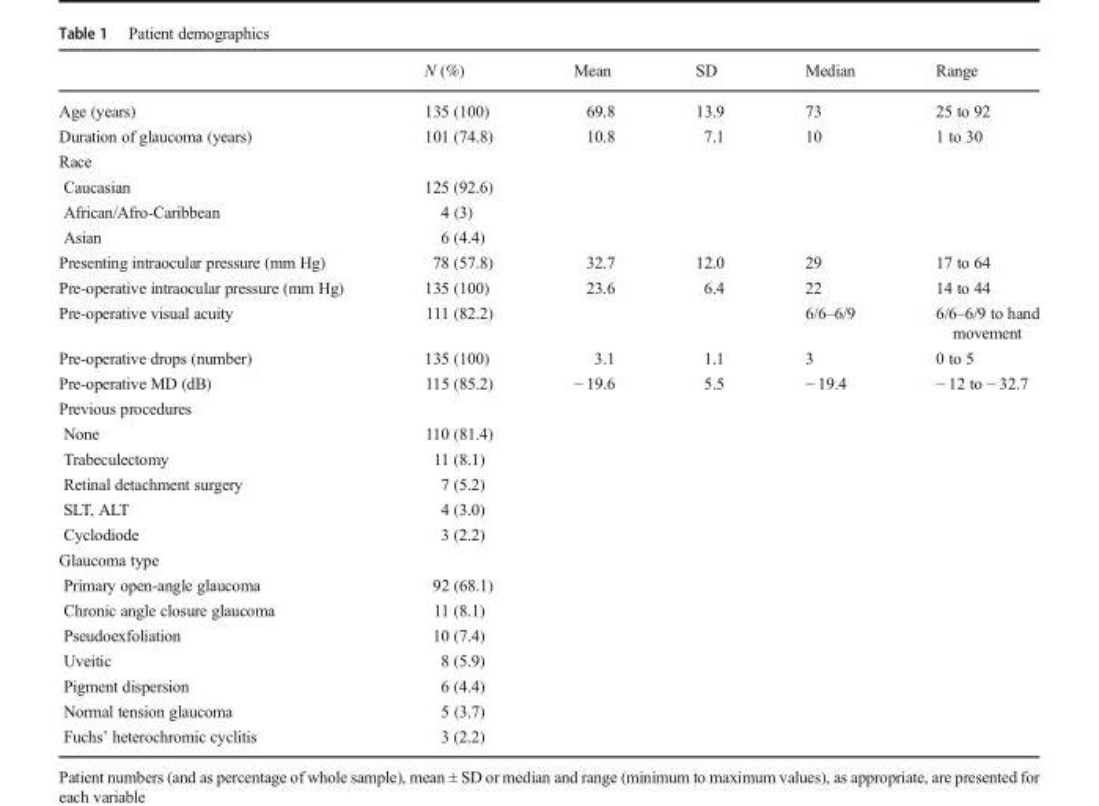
<table><thead><tr><td></td><td>N (%)</td><td>Mean</td><td>SD</td><td>Median</td><td>Range</td></tr></thead><tbody><tr><td>Age (years)</td><td>135 (100)</td><td>69.8</td><td>13.9</td><td>73</td><td>25 to 92</td></tr><tr><td>Duration of glaucoma (years)</td><td>101 (74.8)</td><td>10.8</td><td>7.1</td><td>10</td><td>1 to 30</td></tr><tr><td colspan="6">Race</td></tr><tr><td>Caucasian</td><td>125 (92.6)</td><td></td><td></td><td></td><td></td></tr><tr><td>African/Afro-Caribbean</td><td>4 (3)</td><td></td><td></td><td></td><td></td></tr><tr><td>Asian</td><td>6 (4.4)</td><td></td><td></td><td></td><td></td></tr><tr><td>Presenting intraocular pressure (mm Hg)</td><td>78 (57.8)</td><td>32.7</td><td>12.0</td><td>29</td><td>17 to 64</td></tr><tr><td>Pre-operative intraocular pressure (mm Hg)</td><td>135 (100)</td><td>23.6</td><td>6.4</td><td>22</td><td>14 to 44</td></tr><tr><td>Pre-operative visual acuity</td><td>111 (82.2)</td><td></td><td></td><td>6/6–6/9</td><td>6/6–6/9 to hand movement</td></tr><tr><td>Pre-operative drops (number)</td><td>135 (100)</td><td>3.1</td><td>1.1</td><td>3</td><td>0 to 5</td></tr><tr><td>Pre-operative MD (dB)</td><td>115 (85.2)</td><td>− 19.6</td><td>5.5</td><td>− 19.4</td><td>− 12 to − 32.7</td></tr><tr><td colspan="6">Previous procedures</td></tr><tr><td>None</td><td>110 (81.4)</td><td></td><td></td><td></td><td></td></tr><tr><td>Trabeculectomy</td><td>11 (8.1)</td><td></td><td></td><td></td><td></td></tr><tr><td>Retinal detachment surgery</td><td>7 (5.2)</td><td></td><td></td><td></td><td></td></tr><tr><td>SLT, ALT</td><td>4 (3.0)</td><td></td><td></td><td></td><td></td></tr><tr><td>Cyclodiode</td><td>3 (2.2)</td><td></td><td></td><td></td><td></td></tr><tr><td colspan="6">Glaucoma type</td></tr><tr><td>Primary open-angle glaucoma</td><td>92 (68.1)</td><td></td><td></td><td></td><td></td></tr><tr><td>Chronic angle closure glaucoma</td><td>11 (8.1)</td><td></td><td></td><td></td><td></td></tr><tr><td>Pseudoexfoliation</td><td>10 (7.4)</td><td></td><td></td><td></td><td></td></tr><tr><td>Uveitic</td><td>8 (5.9)</td><td></td><td></td><td></td><td></td></tr><tr><td>Pigment dispersion</td><td>6 (4.4)</td><td></td><td></td><td></td><td></td></tr><tr><td>Normal tension glaucoma</td><td>5 (3.7)</td><td></td><td></td><td></td><td></td></tr><tr><td>Fuchs’ heterochromic cyclitis</td><td>3 (2.2)</td><td></td><td></td><td></td><td></td></tr></tbody></table>